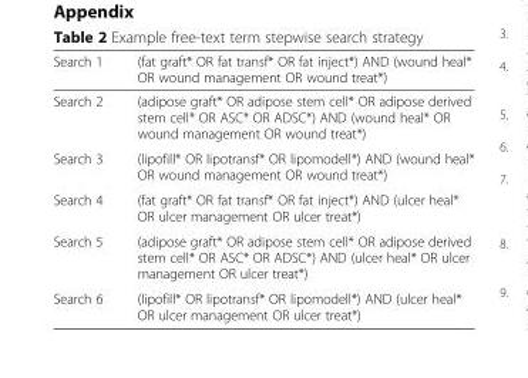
<table><thead><tr><td>Search 1</td><td>(fat graft* OR fat transf* OR fat inject*) AND (wound heal* OR wound management OR wound treat*)</td></tr></thead><tbody><tr><td>Search 2</td><td>(adipose graft* OR adipose stem cell* OR adipose derived stem cell* OR ASC* OR ADSC*) AND (wound heal* OR wound management OR wound treat*)</td></tr><tr><td>Search 3</td><td>(lipofill* OR lipotransf* OR lipomodell*) AND (wound heal* OR wound management OR wound treat*)</td></tr><tr><td>Search 4</td><td>(fat graft* OR fat transf* OR fat inject*) AND (ulcer heal* OR ulcer management OR ulcer treat*)</td></tr><tr><td>Search 5</td><td>(adipose graft* OR adipose stem cell* OR adipose derived stem cell* OR ASC* OR ADSC*) AND (ulcer heal* OR ulcer management OR ulcer treat*)</td></tr><tr><td>Search 6</td><td>(lipofill* OR lipotransf* OR lipomodell*) AND (ulcer heal* OR ulcer management OR ulcer treat*)</td></tr></tbody></table>